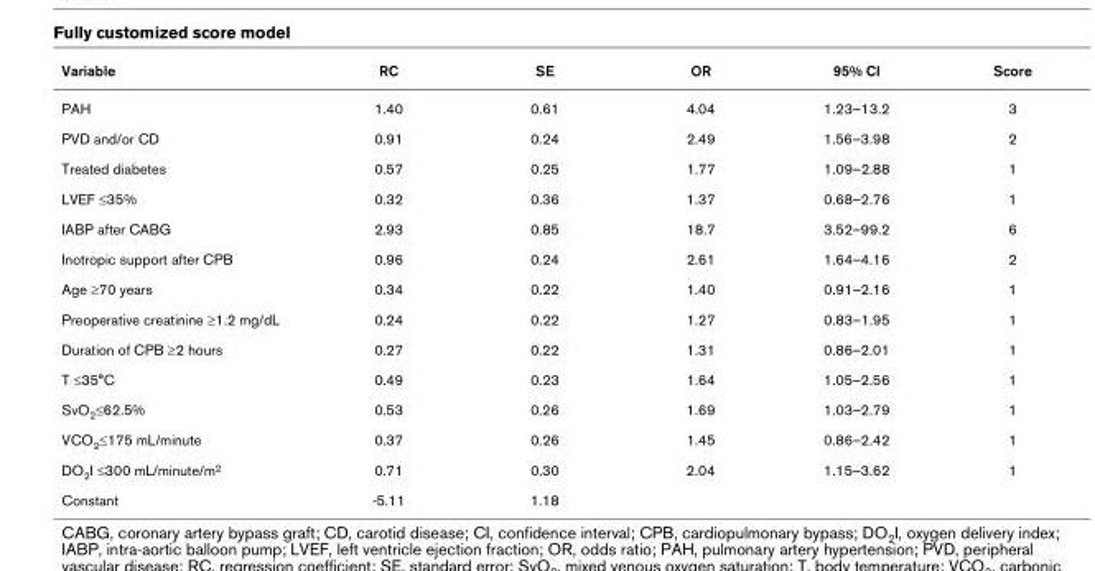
<table><thead><tr><td>Variable</td><td>RC</td><td>SE</td><td>OR</td><td>95% CI</td><td>Score</td></tr></thead><tbody><tr><td>PAH</td><td>1.40</td><td>0.61</td><td>4.04</td><td>1.23–13.2</td><td>3</td></tr><tr><td>PVD and/or CD</td><td>0.91</td><td>0.24</td><td>2.49</td><td>1.56–3.98</td><td>2</td></tr><tr><td>Treated diabetes</td><td>0.57</td><td>0.25</td><td>1.77</td><td>1.09–2.88</td><td>1</td></tr><tr><td>LVEF ≤35%</td><td>0.32</td><td>0.36</td><td>1.37</td><td>0.68–2.76</td><td>1</td></tr><tr><td>IABP after CABG</td><td>2.93</td><td>0.85</td><td>18.7</td><td>3.52–99.2</td><td>6</td></tr><tr><td>Inotropic support after CPB</td><td>0.96</td><td>0.24</td><td>2.61</td><td>1.64–4.16</td><td>2</td></tr><tr><td>Age ≥70 years</td><td>0.34</td><td>0.22</td><td>1.40</td><td>0.91–2.16</td><td>1</td></tr><tr><td>Preoperative creatinine ≥1.2 mg/dL</td><td>0.24</td><td>0.22</td><td>1.27</td><td>0.83–1.95</td><td>1</td></tr><tr><td>Duration of CPB ≥2 hours</td><td>0.27</td><td>0.22</td><td>1.31</td><td>0.86–2.01</td><td>1</td></tr><tr><td>T ≤35°C</td><td>0.49</td><td>0.23</td><td>1.64</td><td>1.05–2.56</td><td>1</td></tr><tr><td>SvO2≤62.5%</td><td>0.53</td><td>0.26</td><td>1.69</td><td>1.03–2.79</td><td>1</td></tr><tr><td>VCO2≤175 mL/minute</td><td>0.37</td><td>0.26</td><td>1.45</td><td>0.86–2.42</td><td>1</td></tr><tr><td>DO2I ≤300 mL/minute/m2</td><td>0.71</td><td>0.30</td><td>2.04</td><td>1.15–3.62</td><td>1</td></tr><tr><td>Constant</td><td>-5.11</td><td>1.18</td><td></td><td></td><td></td></tr></tbody></table>